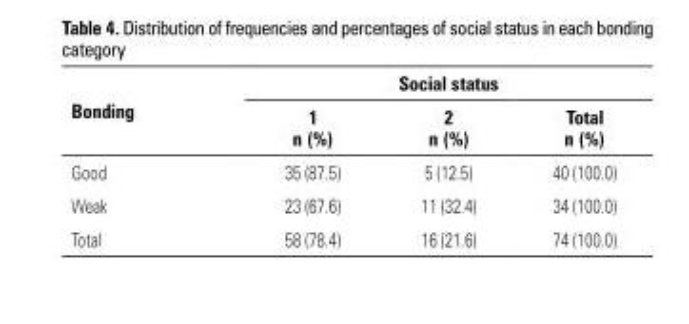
<table><thead><tr><td rowspan="2">Bonding</td><td colspan="3">Social status</td></tr><tr><td>1 n (%)</td><td>2 n (%)</td><td>Total n (%)</td></tr></thead><tbody><tr><td>Good</td><td>35 (87.5)</td><td>5 (12.5)</td><td>40 (100.0)</td></tr><tr><td>Weak</td><td>23 (67.6)</td><td>11 (32.4)</td><td>34 (100.0)</td></tr><tr><td>Total</td><td>58 (78.4)</td><td>16 (21.6)</td><td>74 (100.0)</td></tr></tbody></table>